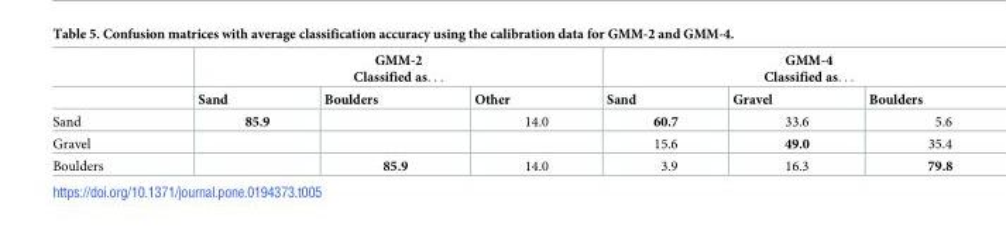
<table><thead><tr><td rowspan="2"></td><td colspan="3">GMM-2 Classified as. . .</td><td colspan="3">GMM-4 Classified as. . .</td></tr><tr><td>Sand</td><td>Boulders</td><td>Other</td><td>Sand</td><td>Gravel</td><td>Boulders</td></tr></thead><tbody><tr><td>Sand</td><td>85.9</td><td></td><td>14.0</td><td>60.7</td><td>33.6</td><td>5.6</td></tr><tr><td>Gravel</td><td></td><td></td><td></td><td>15.6</td><td>49.0</td><td>35.4</td></tr><tr><td>Boulders</td><td></td><td>85.9</td><td>14.0</td><td>3.9</td><td>16.3</td><td>79.8</td></tr></tbody></table>